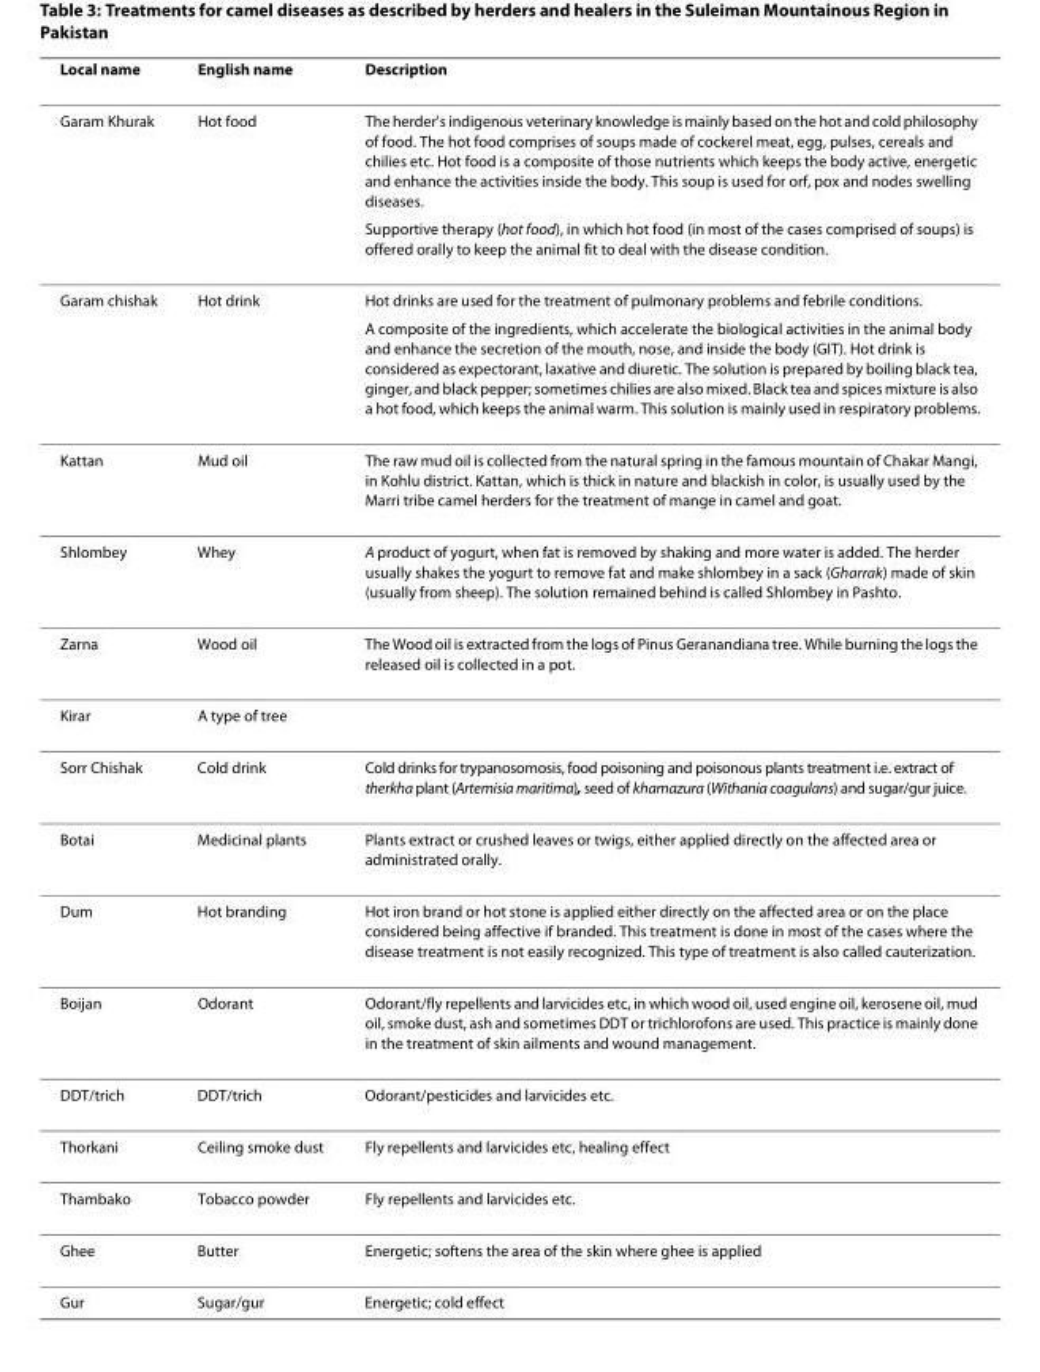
<table><thead><tr><td>Local name</td><td>English name</td><td>Description</td></tr></thead><tbody><tr><td rowspan="2">Garam Khurak</td><td>Hot food</td><td>The herder&#x27;s indigenous veterinary knowledge is mainly based on the hot and cold philosophy of food. The hot food comprises of soups made of cockerel meat, egg, pulses, cereals and chilies etc. Hot food is a composite of those nutrients which keeps the body active, energetic and enhance the activities inside the body. This soup is used for orf, pox and nodes swelling diseases.</td></tr><tr><td></td><td>Supportive therapy (hot food), in which hot food (in most of the cases comprised of soups) is offered orally to keep the animal fit to deal with the disease condition.</td></tr><tr><td rowspan="2">Garam chishak</td><td>Hot drink</td><td>Hot drinks are used for the treatment of pulmonary problems and febrile conditions.</td></tr><tr><td></td><td>A composite of the ingredients, which accelerate the biological activities in the animal body and enhance the secretion of the mouth, nose, and inside the body (GIT). Hot drink is considered as expectorant, laxative and diuretic. The solution is prepared by boiling black tea, ginger, and black pepper; sometimes chilies are also mixed. Black tea and spices mixture is also a hot food, which keeps the animal warm. This solution is mainly used in respiratory problems.</td></tr><tr><td>Kattan</td><td>Mud oil</td><td>The raw mud oil is collected from the natural spring in the famous mountain of Chakar Mangi, in Kohlu district. Kattan, which is thick in nature and blackish in color, is usually used by the Marri tribe camel herders for the treatment of mange in camel and goat.</td></tr><tr><td>Shlombey</td><td>Whey</td><td>A product of yogurt, when fat is removed by shaking and more water is added. The herder usually shakes the yogurt to remove fat and make shlombey in a sack (Gharrak) made of skin (usually from sheep). The solution remained behind is called Shlombey in Pashto.</td></tr><tr><td>Zarna</td><td>Wood oil</td><td>The Wood oil is extracted from the logs of Pinus Geranandiana tree. While burning the logs the released oil is collected in a pot.</td></tr><tr><td>Kirar</td><td>A type of tree</td><td></td></tr><tr><td>Sorr Chishak</td><td>Cold drink</td><td>Cold drinks for trypanosomosis, food poisoning and poisonous plants treatment i.e. extract of therkha plant (Artemisia maritima), seed of khamazura (Withania coagulans) and sugar/gur juice.</td></tr><tr><td>Botai</td><td>Medicinal plants</td><td>Plants extract or crushed leaves or twigs, either applied directly on the affected area or administrated orally.</td></tr><tr><td>Dum</td><td>Hot branding</td><td>Hot iron brand or hot stone is applied either directly on the affected area or on the place considered being affective if branded. This treatment is done in most of the cases where the disease treatment is not easily recognized. This type of treatment is also called cauterization.</td></tr><tr><td>Boijan</td><td>Odorant</td><td>Odorant/fly repellents and larvicides etc, in which wood oil, used engine oil, kerosene oil, mud oil, smoke dust, ash and sometimes DDT or trichlorofons are used. This practice is mainly done in the treatment of skin ailments and wound management.</td></tr><tr><td>DDT/trich</td><td>DDT/trich</td><td>Odorant/pesticides and larvicides etc.</td></tr><tr><td>Thorkani</td><td>Ceiling smoke dust</td><td>Fly repellents and larvicides etc, healing effect</td></tr><tr><td>Thambako</td><td>Tobacco powder</td><td>Fly repellents and larvicides etc.</td></tr><tr><td>Ghee</td><td>Butter</td><td>Energetic; softens the area of the skin where ghee is applied</td></tr><tr><td>Gur</td><td>Sugar/gur</td><td>Energetic; cold effect</td></tr></tbody></table>